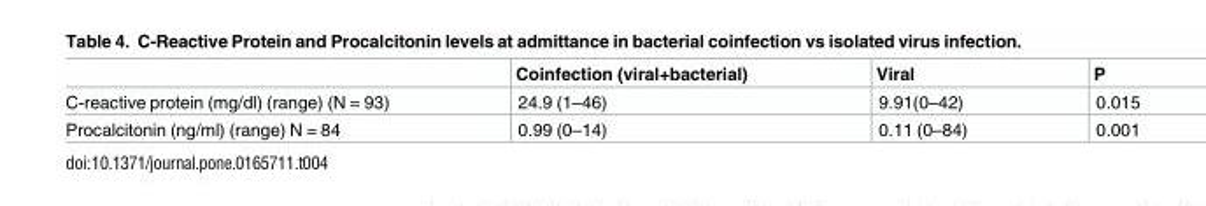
<table><thead><tr><td></td><td>Coinfection (viral+bacterial)</td><td>Viral</td><td>P</td></tr></thead><tbody><tr><td>C-reactive protein (mg/dl) (range) (N = 93)</td><td>24.9 (1–46)</td><td>9.91(0–42)</td><td>0.015</td></tr><tr><td>Procalcitonin (ng/ml) (range) N = 84</td><td>0.99 (0–14)</td><td>0.11 (0–84)</td><td>0.001</td></tr></tbody></table>